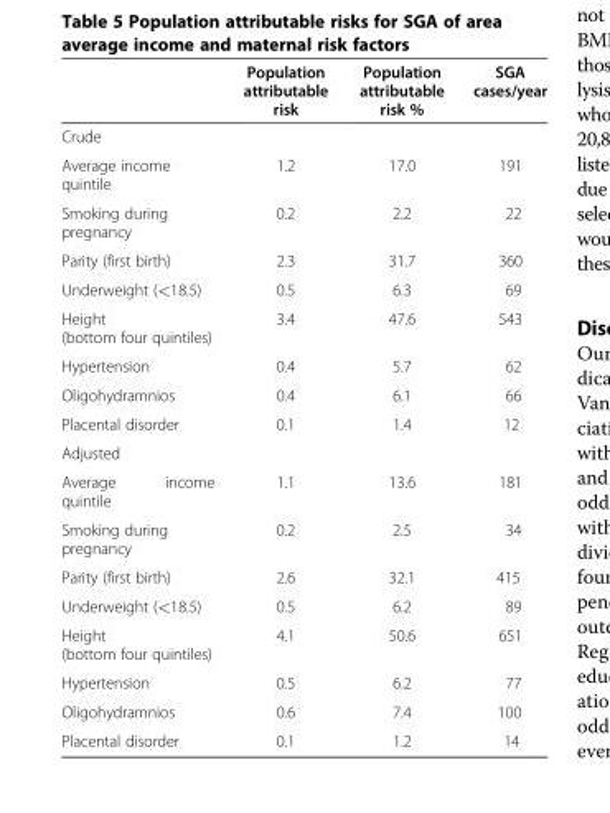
<table><thead><tr><td></td><td>Population attributable risk</td><td>Population attributable risk %</td><td>SGA cases/year</td></tr></thead><tbody><tr><td colspan="4">Crude</td></tr><tr><td>Average income quintile</td><td>1.2</td><td>17.0</td><td>191</td></tr><tr><td>Smoking during pregnancy</td><td>0.2</td><td>2.2</td><td>22</td></tr><tr><td>Parity (first birth)</td><td>2.3</td><td>31.7</td><td>360</td></tr><tr><td>Underweight (&lt;18.5)</td><td>0.5</td><td>6.3</td><td>69</td></tr><tr><td>Height (bottom four quintiles)</td><td>3.4</td><td>47.6</td><td>543</td></tr><tr><td>Hypertension</td><td>0.4</td><td>5.7</td><td>62</td></tr><tr><td>Oligohydramnios</td><td>0.4</td><td>6.1</td><td>66</td></tr><tr><td>Placental disorder</td><td>0.1</td><td>1.4</td><td>12</td></tr><tr><td colspan="4">Adjusted</td></tr><tr><td>Average income quintile</td><td>1.1</td><td>13.6</td><td>181</td></tr><tr><td>Smoking during pregnancy</td><td>0.2</td><td>2.5</td><td>34</td></tr><tr><td>Parity (first birth)</td><td>2.6</td><td>32.1</td><td>415</td></tr><tr><td>Underweight (&lt;18.5)</td><td>0.5</td><td>6.2</td><td>89</td></tr><tr><td>Height (bottom four quintiles)</td><td>4.1</td><td>50.6</td><td>651</td></tr><tr><td>Hypertension</td><td>0.5</td><td>6.2</td><td>77</td></tr><tr><td>Oligohydramnios</td><td>0.6</td><td>7.4</td><td>100</td></tr><tr><td>Placental disorder</td><td>0.1</td><td>1.2</td><td>14</td></tr></tbody></table>